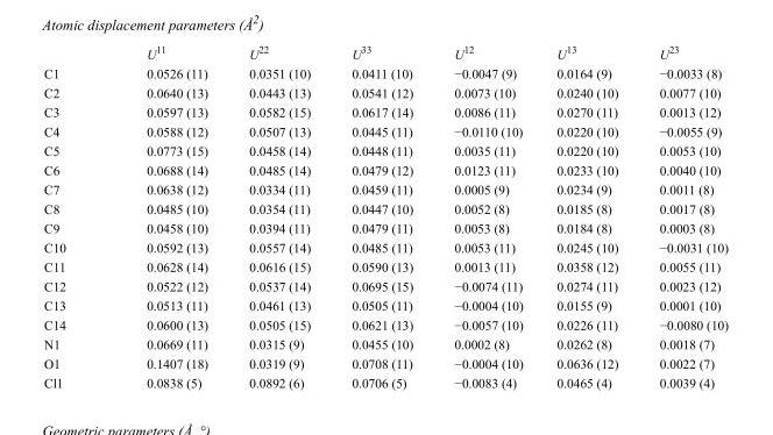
<table><thead><tr><td></td><td>U<sup>11</sup></td><td>U<sup>22</sup></td><td>U<sup>33</sup></td><td>U<sup>12</sup></td><td>U<sup>13</sup></td><td>U<sup>23</sup></td></tr></thead><tbody><tr><td>C1</td><td>0.0526 (11)</td><td>0.0351 (10)</td><td>0.0411 (10)</td><td>−0.0047 (9)</td><td>0.0164 (9)</td><td>−0.0033 (8)</td></tr><tr><td>C2</td><td>0.0640 (13)</td><td>0.0443 (13)</td><td>0.0541 (12)</td><td>0.0073 (10)</td><td>0.0240 (10)</td><td>0.0077 (10)</td></tr><tr><td>C3</td><td>0.0597 (13)</td><td>0.0582 (15)</td><td>0.0617 (14)</td><td>0.0086 (11)</td><td>0.0270 (11)</td><td>0.0013 (12)</td></tr><tr><td>C4</td><td>0.0588 (12)</td><td>0.0507 (13)</td><td>0.0445 (11)</td><td>−0.0110 (10)</td><td>0.0220 (10)</td><td>−0.0055 (9)</td></tr><tr><td>C5</td><td>0.0773 (15)</td><td>0.0458 (14)</td><td>0.0448 (11)</td><td>0.0035 (11)</td><td>0.0220 (10)</td><td>0.0053 (10)</td></tr><tr><td>C6</td><td>0.0688 (14)</td><td>0.0485 (14)</td><td>0.0479 (12)</td><td>0.0123 (11)</td><td>0.0233 (10)</td><td>0.0040 (10)</td></tr><tr><td>C7</td><td>0.0638 (12)</td><td>0.0334 (11)</td><td>0.0459 (11)</td><td>0.0005 (9)</td><td>0.0234 (9)</td><td>0.0011 (8)</td></tr><tr><td>C8</td><td>0.0485 (10)</td><td>0.0354 (11)</td><td>0.0447 (10)</td><td>0.0052 (8)</td><td>0.0185 (8)</td><td>0.0017 (8)</td></tr><tr><td>C9</td><td>0.0458 (10)</td><td>0.0394 (11)</td><td>0.0479 (11)</td><td>0.0053 (8)</td><td>0.0184 (8)</td><td>0.0003 (8)</td></tr><tr><td>C10</td><td>0.0592 (13)</td><td>0.0557 (14)</td><td>0.0485 (11)</td><td>0.0053 (11)</td><td>0.0245 (10)</td><td>−0.0031 (10)</td></tr><tr><td>C11</td><td>0.0628 (14)</td><td>0.0616 (15)</td><td>0.0590 (13)</td><td>0.0013 (11)</td><td>0.0358 (12)</td><td>0.0055 (11)</td></tr><tr><td>C12</td><td>0.0522 (12)</td><td>0.0537 (14)</td><td>0.0695 (15)</td><td>−0.0074 (11)</td><td>0.0274 (11)</td><td>0.0023 (12)</td></tr><tr><td>C13</td><td>0.0513 (11)</td><td>0.0461 (13)</td><td>0.0505 (11)</td><td>−0.0004 (10)</td><td>0.0155 (9)</td><td>0.0001 (10)</td></tr><tr><td>C14</td><td>0.0600 (13)</td><td>0.0505 (15)</td><td>0.0621 (13)</td><td>−0.0057 (10)</td><td>0.0226 (11)</td><td>−0.0080 (10)</td></tr><tr><td>N1</td><td>0.0669 (11)</td><td>0.0315 (9)</td><td>0.0455 (10)</td><td>0.0002 (8)</td><td>0.0262 (8)</td><td>0.0018 (7)</td></tr><tr><td>O1</td><td>0.1407 (18)</td><td>0.0319 (9)</td><td>0.0708 (11)</td><td>−0.0004 (10)</td><td>0.0636 (12)</td><td>0.0022 (7)</td></tr><tr><td>Cl1</td><td>0.0838 (5)</td><td>0.0892 (6)</td><td>0.0706 (5)</td><td>−0.0083 (4)</td><td>0.0465 (4)</td><td>0.0039 (4)</td></tr></tbody></table>